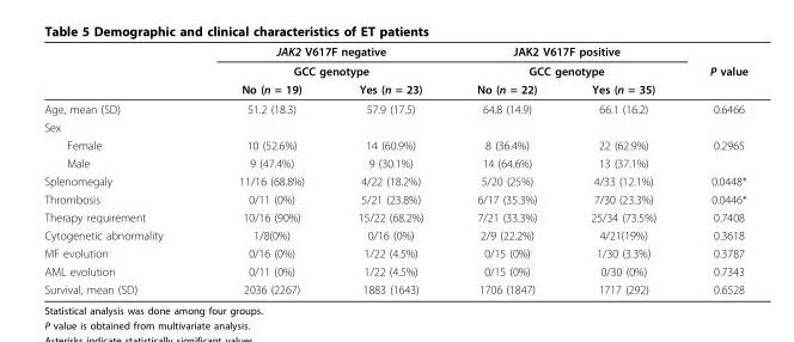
<table><thead><tr><td rowspan="3"></td><td rowspan="2" colspan="2">JAK2 V617F negative GCC genotype</td><td rowspan="2" colspan="2">JAK2 V617F positive GCC genotype</td><td rowspan="3">P value</td></tr><tr></tr><tr><td>No (n = 19)</td><td>Yes (n = 23)</td><td>No (n = 22)</td><td>Yes (n = 35)</td></tr></thead><tbody><tr><td>Age, mean (SD)</td><td>51.2 (18.3)</td><td>57.9 (17.5)</td><td>64.8 (14.9)</td><td>66.1 (16.2)</td><td>0.6466</td></tr><tr><td colspan="6">Sex</td></tr><tr><td>Female</td><td>10 (52.6%)</td><td>14 (60.9%)</td><td>8 (36.4%)</td><td>22 (62.9%)</td><td>0.2965</td></tr><tr><td>Male</td><td>9 (47.4%)</td><td>9 (30.1%)</td><td>14 (64.6%)</td><td>13 (37.1%)</td><td></td></tr><tr><td>Splenomegaly</td><td>11/16 (68.8%)</td><td>4/22 (18.2%)</td><td>5/20 (25%)</td><td>4/33 (12.1%)</td><td>0.0448*</td></tr><tr><td>Thrombosis</td><td>0/11 (0%)</td><td>5/21 (23.8%)</td><td>6/17 (35.3%)</td><td>7/30 (23.3%)</td><td>0.0446*</td></tr><tr><td>Therapy requirement</td><td>10/16 (90%)</td><td>15/22 (68.2%)</td><td>7/21 (33.3%)</td><td>25/34 (73.5%)</td><td>0.7408</td></tr><tr><td>Cytogenetic abnormality</td><td>1/8(0%)</td><td>0/16 (0%)</td><td>2/9 (22.2%)</td><td>4/21(19%)</td><td>0.3618</td></tr><tr><td>MF evolution</td><td>0/16 (0%)</td><td>1/22 (4.5%)</td><td>0/15 (0%)</td><td>1/30 (3.3%)</td><td>0.3787</td></tr><tr><td>AML evolution</td><td>0/11 (0%)</td><td>1/22 (4.5%)</td><td>0/15 (0%)</td><td>0/30 (0%)</td><td>0.7343</td></tr><tr><td>Survival, mean (SD)</td><td>2036 (2267)</td><td>1883 (1643)</td><td>1706 (1847)</td><td>1717 (292)</td><td>0.6528</td></tr></tbody></table>